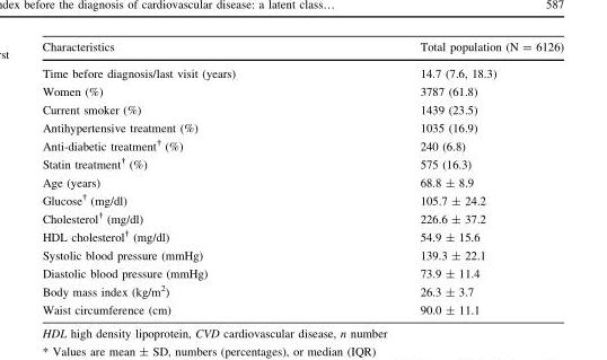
<table><thead><tr><td>Characteristics</td><td>Total population (N = 6126)</td></tr></thead><tbody><tr><td>Time before diagnosis/last visit (years)</td><td>14.7 (7.6, 18.3)</td></tr><tr><td>Women (%)</td><td>3787 (61.8)</td></tr><tr><td>Current smoker (%)</td><td>1439 (23.5)</td></tr><tr><td>Antihypertensive treatment (%)</td><td>1035 (16.9)</td></tr><tr><td>Anti-diabetic treatment<sup>†</sup> (%)</td><td>240 (6.8)</td></tr><tr><td>Statin treatment<sup>†</sup> (%)</td><td>575 (16.3)</td></tr><tr><td>Age (years)</td><td>68.8 ± 8.9</td></tr><tr><td>Glucose<sup>†</sup> (mg/dl)</td><td>105.7 ± 24.2</td></tr><tr><td>Cholesterol<sup>†</sup> (mg/dl)</td><td>226.6 ± 37.2</td></tr><tr><td>HDL cholesterol<sup>†</sup> (mg/dl)</td><td>54.9 ± 15.6</td></tr><tr><td>Systolic blood pressure (mmHg)</td><td>139.3 ± 22.1</td></tr><tr><td>Diastolic blood pressure (mmHg)</td><td>73.9 ± 11.4</td></tr><tr><td>Body mass index (kg/m<sup>2</sup>)</td><td>26.3 ± 3.7</td></tr><tr><td>Waist circumference (cm)</td><td>90.0 ± 11.1</td></tr></tbody></table>